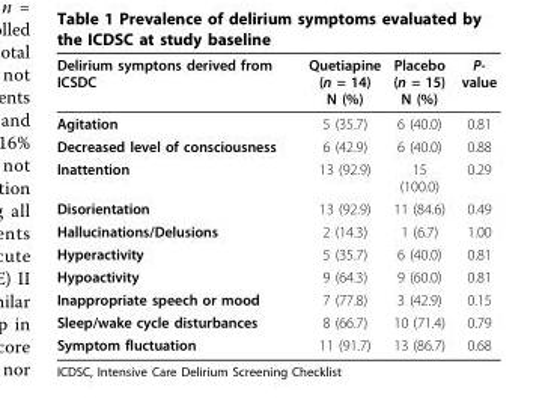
<table><thead><tr><td>Delirium symptons derived from ICSDC</td><td>Quetiapine (n = 14) N (%)</td><td>Placebo (n = 15) N (%)</td><td>P- value</td></tr></thead><tbody><tr><td>Agitation</td><td>5 (35.7)</td><td>6 (40.0)</td><td>0.81</td></tr><tr><td>Decreased level of consciousness</td><td>6 (42.9)</td><td>6 (40.0)</td><td>0.88</td></tr><tr><td>Inattention</td><td>13 (92.9)</td><td>15 (100.0)</td><td>0.29</td></tr><tr><td>Disorientation</td><td>13 (92.9)</td><td>11 (84.6)</td><td>0.49</td></tr><tr><td>Hallucinations/Delusions</td><td>2 (14.3)</td><td>1 (6.7)</td><td>1.00</td></tr><tr><td>Hyperactivity</td><td>5 (35.7)</td><td>6 (40.0)</td><td>0.81</td></tr><tr><td>Hypoactivity</td><td>9 (64.3)</td><td>9 (60.0)</td><td>0.81</td></tr><tr><td>Inappropriate speech or mood</td><td>7 (77.8)</td><td>3 (42.9)</td><td>0.15</td></tr><tr><td>Sleep/wake cycle disturbances</td><td>8 (66.7)</td><td>10 (71.4)</td><td>0.79</td></tr><tr><td>Symptom fluctuation</td><td>11 (91.7)</td><td>13 (86.7)</td><td>0.68</td></tr></tbody></table>